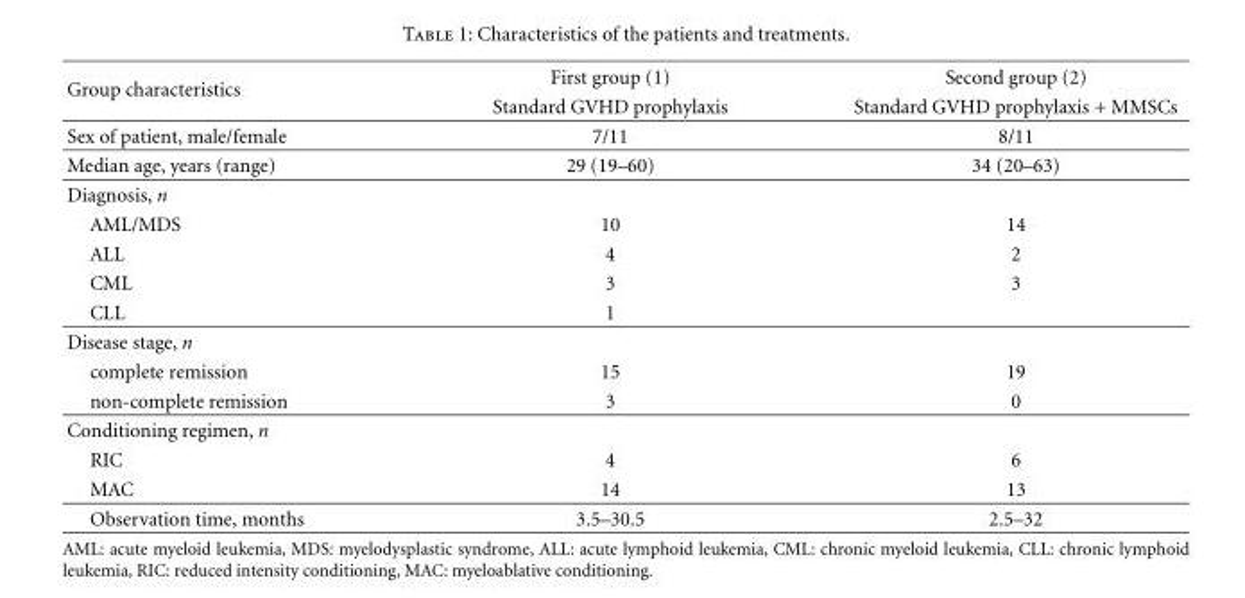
<table><thead><tr><td rowspan="2">Group characteristics</td><td rowspan="2">First group (1) Standard GVHD prophylaxis</td><td rowspan="2">Second group (2) Standard GVHD prophylaxis + MMSCs</td></tr><tr></tr></thead><tbody><tr><td>Sex of patient, male/female</td><td>7/11</td><td>8/11</td></tr><tr><td>Median age, years (range)</td><td>29 (19–60)</td><td>34 (20–63)</td></tr><tr><td colspan="3">Diagnosis, n</td></tr><tr><td>AML/MDS</td><td>10</td><td>14</td></tr><tr><td>ALL</td><td>4</td><td>2</td></tr><tr><td>CML</td><td>3</td><td>3</td></tr><tr><td>CLL</td><td>1</td><td></td></tr><tr><td colspan="3">Disease stage, n</td></tr><tr><td>complete remission</td><td>15</td><td>19</td></tr><tr><td>non-complete remission</td><td>3</td><td>0</td></tr><tr><td colspan="3">Conditioning regimen, n</td></tr><tr><td>RIC</td><td>4</td><td>6</td></tr><tr><td>MAC</td><td>14</td><td>13</td></tr><tr><td>Observation time, months</td><td>3.5–30.5</td><td>2.5–32</td></tr></tbody></table>